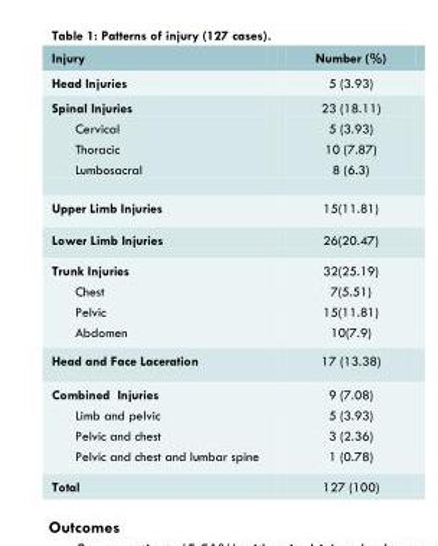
<table><thead><tr><td>Injury</td><td>Number (%)</td></tr></thead><tbody><tr><td>Head Injuries</td><td>5 (3.93)</td></tr><tr><td>Spinal Injuries</td><td>23 (18.11)</td></tr><tr><td>Cervical</td><td>5 (3.93)</td></tr><tr><td>Thoracic</td><td>10 (7.87)</td></tr><tr><td>Lumbosacral</td><td>8 (6.3)</td></tr><tr><td>Upper Limb Injuries</td><td>15(11.81)</td></tr><tr><td>Lower Limb Injuries</td><td>26(20.47)</td></tr><tr><td>Trunk Injuries</td><td>32(25.19)</td></tr><tr><td>Chest</td><td>7(5.51)</td></tr><tr><td>Pelvic</td><td>15(11.81)</td></tr><tr><td>Abdomen</td><td>10(7.9)</td></tr><tr><td>Head and Face Laceration</td><td>17 (13.38)</td></tr><tr><td>Combined Injuries</td><td>9 (7.08)</td></tr><tr><td>Limb and pelvic</td><td>5 (3.93)</td></tr><tr><td>Pelvic and chest</td><td>3 (2.36)</td></tr><tr><td>Pelvic and chest and lumbar spine</td><td>1 (0.78)</td></tr><tr><td>Total</td><td>127 (100)</td></tr></tbody></table>